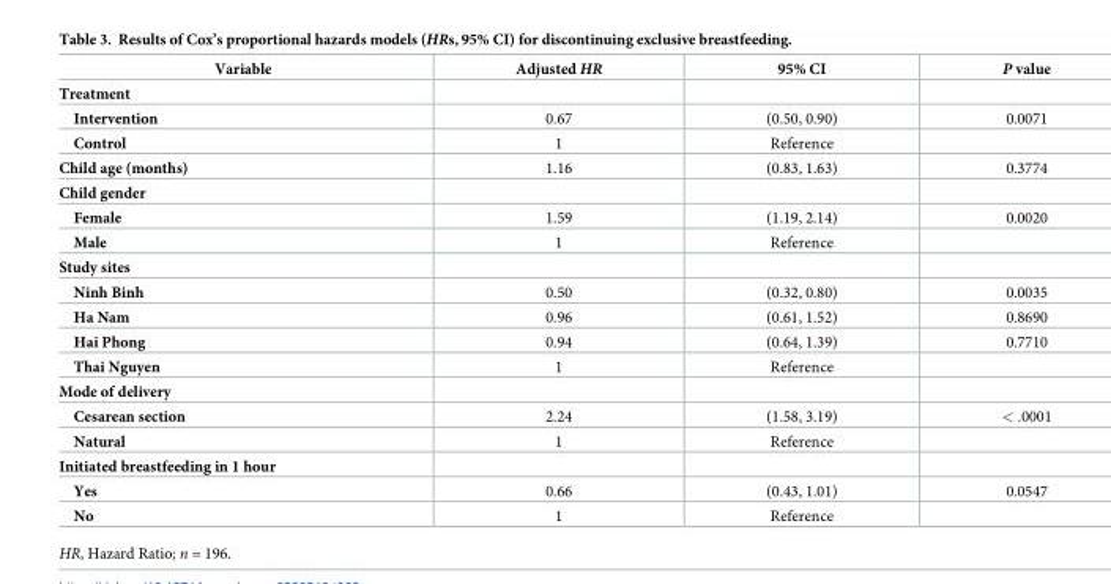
<table><thead><tr><td>Variable</td><td>Adjusted HR</td><td>95% CI</td><td>P value</td></tr></thead><tbody><tr><td colspan="4">Treatment</td></tr><tr><td>Intervention</td><td>0.67</td><td>(0.50, 0.90)</td><td>0.0071</td></tr><tr><td>Control</td><td>1</td><td>Reference</td><td></td></tr><tr><td>Child age (months)</td><td>1.16</td><td>(0.83, 1.63)</td><td>0.3774</td></tr><tr><td colspan="4">Child gender</td></tr><tr><td>Female</td><td>1.59</td><td>(1.19, 2.14)</td><td>0.0020</td></tr><tr><td>Male</td><td>1</td><td>Reference</td><td></td></tr><tr><td colspan="4">Study sites</td></tr><tr><td>Ninh Binh</td><td>0.50</td><td>(0.32, 0.80)</td><td>0.0035</td></tr><tr><td>Ha Nam</td><td>0.96</td><td>(0.61, 1.52)</td><td>0.8690</td></tr><tr><td>Hai Phong</td><td>0.94</td><td>(0.64, 1.39)</td><td>0.7710</td></tr><tr><td>Thai Nguyen</td><td>1</td><td>Reference</td><td></td></tr><tr><td colspan="4">Mode of delivery</td></tr><tr><td>Cesarean section</td><td>2.24</td><td>(1.58, 3.19)</td><td>&lt; .0001</td></tr><tr><td>Natural</td><td>1</td><td>Reference</td><td></td></tr><tr><td colspan="4">Initiated breastfeeding in 1 hour</td></tr><tr><td>Yes</td><td>0.66</td><td>(0.43, 1.01)</td><td>0.0547</td></tr><tr><td>No</td><td>1</td><td>Reference</td><td></td></tr></tbody></table>